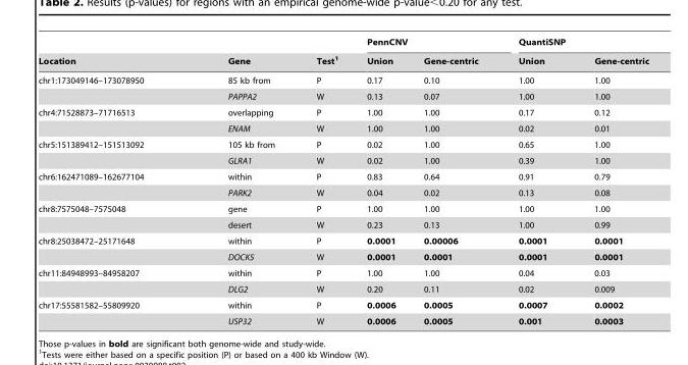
<table><thead><tr><td rowspan="2">Location</td><td rowspan="2">Gene</td><td rowspan="2">Test<sup>1</sup></td><td colspan="2">PennCNV</td><td colspan="2">QuantiSNP</td></tr><tr><td>Union</td><td>Gene-centric</td><td>Union</td><td>Gene-centric</td></tr></thead><tbody><tr><td rowspan="2">chr1:173049146–173078950</td><td>85 kb from</td><td>P</td><td>0.17</td><td>0.10</td><td>1.00</td><td>1.00</td></tr><tr><td>PAPPA2</td><td>W</td><td>0.13</td><td>0.07</td><td>1.00</td><td>1.00</td></tr><tr><td rowspan="2">chr4:71528873–71716513</td><td>overlapping</td><td>P</td><td>1.00</td><td>1.00</td><td>0.17</td><td>0.12</td></tr><tr><td>ENAM</td><td>W</td><td>1.00</td><td>1.00</td><td>0.02</td><td>0.01</td></tr><tr><td rowspan="2">chr5:151389412–151513092</td><td>105 kb from</td><td>P</td><td>0.02</td><td>1.00</td><td>0.65</td><td>1.00</td></tr><tr><td>GLRA1</td><td>W</td><td>0.02</td><td>1.00</td><td>0.39</td><td>1.00</td></tr><tr><td rowspan="2">chr6:162471089–162677104</td><td>within</td><td>P</td><td>0.83</td><td>0.64</td><td>0.91</td><td>0.79</td></tr><tr><td>PARK2</td><td>W</td><td>0.04</td><td>0.02</td><td>0.13</td><td>0.08</td></tr><tr><td rowspan="2">chr8:7575048–7575048</td><td>gene</td><td>P</td><td>1.00</td><td>1.00</td><td>1.00</td><td>1.00</td></tr><tr><td>desert</td><td>W</td><td>0.23</td><td>0.13</td><td>1.00</td><td>0.99</td></tr><tr><td rowspan="2">chr8:25038472–25171648</td><td>within</td><td>P</td><td>0.0001</td><td>0.00006</td><td>0.0001</td><td>0.0001</td></tr><tr><td>DOCK5</td><td>W</td><td>0.0001</td><td>0.0001</td><td>0.0001</td><td>0.0001</td></tr><tr><td rowspan="2">chr11:84948993–84958207</td><td>within</td><td>P</td><td>1.00</td><td>1.00</td><td>0.04</td><td>0.03</td></tr><tr><td>DLG2</td><td>W</td><td>0.20</td><td>0.11</td><td>0.02</td><td>0.009</td></tr><tr><td rowspan="2">chr17:55581582–55809920</td><td>within</td><td>P</td><td>0.0006</td><td>0.0005</td><td>0.0007</td><td>0.0002</td></tr><tr><td>USP32</td><td>W</td><td>0.0006</td><td>0.0005</td><td>0.001</td><td>0.0003</td></tr></tbody></table>